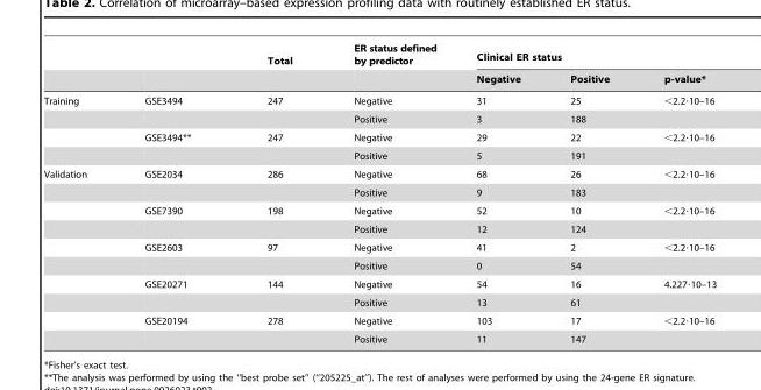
<table><thead><tr><td rowspan="2"></td><td rowspan="2"></td><td rowspan="2">Total</td><td rowspan="2">ER status defined by predictor</td><td colspan="3">Clinical ER status</td></tr><tr><td>Negative</td><td>Positive</td><td>p-value*</td></tr></thead><tbody><tr><td rowspan="4">Training</td><td>GSE3494</td><td>247</td><td>Negative</td><td>31</td><td>25</td><td>&lt;2.2·10–16</td></tr><tr><td></td><td></td><td>Positive</td><td>3</td><td>188</td><td></td></tr><tr><td>GSE3494**</td><td>247</td><td>Negative</td><td>29</td><td>22</td><td>&lt;2.2·10–16</td></tr><tr><td></td><td></td><td>Positive</td><td>5</td><td>191</td><td></td></tr><tr><td rowspan="10">Validation</td><td>GSE2034</td><td>286</td><td>Negative</td><td>68</td><td>26</td><td>&lt;2.2·10–16</td></tr><tr><td></td><td></td><td>Positive</td><td>9</td><td>183</td><td></td></tr><tr><td>GSE7390</td><td>198</td><td>Negative</td><td>52</td><td>10</td><td>&lt;2.2·10–16</td></tr><tr><td></td><td></td><td>Positive</td><td>12</td><td>124</td><td></td></tr><tr><td>GSE2603</td><td>97</td><td>Negative</td><td>41</td><td>2</td><td>&lt;2.2·10–16</td></tr><tr><td></td><td></td><td>Positive</td><td>0</td><td>54</td><td></td></tr><tr><td>GSE20271</td><td>144</td><td>Negative</td><td>54</td><td>16</td><td>4.227·10–13</td></tr><tr><td></td><td></td><td>Positive</td><td>13</td><td>61</td><td></td></tr><tr><td>GSE20194</td><td>278</td><td>Negative</td><td>103</td><td>17</td><td>&lt;2.2·10–16</td></tr><tr><td></td><td></td><td>Positive</td><td>11</td><td>147</td><td></td></tr></tbody></table>